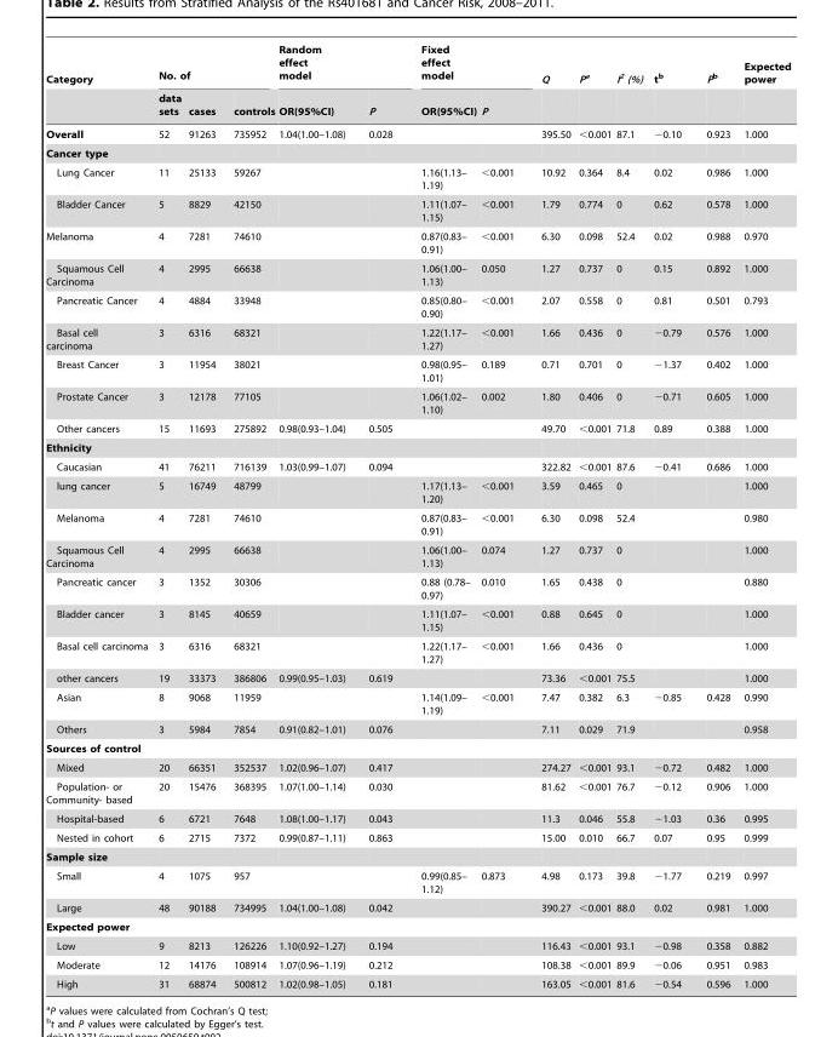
<table><thead><tr><td rowspan="2">Category</td><td colspan="3">No. of</td><td colspan="2">Random effect model</td><td colspan="2">Fixed effect model</td><td rowspan="2">Q</td><td rowspan="2">Pa</td><td rowspan="2">I<sup>2</sup> (%)</td><td rowspan="2">t<sup>b</sup></td><td rowspan="2">Pb</td><td rowspan="2">Expected power</td></tr><tr><td>data sets</td><td>cases</td><td>controls</td><td>OR(95%CI)</td><td>P</td><td>OR(95%CI)</td><td>P</td></tr></thead><tbody><tr><td>Overall</td><td>52</td><td>91263</td><td>735952</td><td>1.04(1.00–1.08)</td><td>0.028</td><td></td><td></td><td>395.50</td><td>&lt;0.001</td><td>87.1</td><td>−0.10</td><td>0.923</td><td>1.000</td></tr><tr><td colspan="14">Cancer type</td></tr><tr><td>Lung Cancer</td><td>11</td><td>25133</td><td>59267</td><td></td><td></td><td>1.16(1.13– 1.19)</td><td>&lt;0.001</td><td>10.92</td><td>0.364</td><td>8.4</td><td>0.02</td><td>0.986</td><td>1.000</td></tr><tr><td>Bladder Cancer</td><td>5</td><td>8829</td><td>42150</td><td></td><td></td><td>1.11(1.07– 1.15)</td><td>&lt;0.001</td><td>1.79</td><td>0.774</td><td>0</td><td>0.62</td><td>0.578</td><td>1.000</td></tr><tr><td>Melanoma</td><td>4</td><td>7281</td><td>74610</td><td></td><td></td><td>0.87(0.83– 0.91)</td><td>&lt;0.001</td><td>6.30</td><td>0.098</td><td>52.4</td><td>0.02</td><td>0.988</td><td>0.970</td></tr><tr><td>Squamous Cell Carcinoma</td><td>4</td><td>2995</td><td>66638</td><td></td><td></td><td>1.06(1.00– 1.13)</td><td>0.050</td><td>1.27</td><td>0.737</td><td>0</td><td>0.15</td><td>0.892</td><td>1.000</td></tr><tr><td>Pancreatic Cancer</td><td>4</td><td>4884</td><td>33948</td><td></td><td></td><td>0.85(0.80– 0.90)</td><td>&lt;0.001</td><td>2.07</td><td>0.558</td><td>0</td><td>0.81</td><td>0.501</td><td>0.793</td></tr><tr><td>Basal cell carcinoma</td><td>3</td><td>6316</td><td>68321</td><td></td><td></td><td>1.22(1.17– 1.27)</td><td>&lt;0.001</td><td>1.66</td><td>0.436</td><td>0</td><td>−0.79</td><td>0.576</td><td>1.000</td></tr><tr><td>Breast Cancer</td><td>3</td><td>11954</td><td>38021</td><td></td><td></td><td>0.98(0.95– 1.01)</td><td>0.189</td><td>0.71</td><td>0.701</td><td>0</td><td>−1.37</td><td>0.402</td><td>1.000</td></tr><tr><td>Prostate Cancer</td><td>3</td><td>12178</td><td>77105</td><td></td><td></td><td>1.06(1.02– 1.10)</td><td>0.002</td><td>1.80</td><td>0.406</td><td>0</td><td>−0.71</td><td>0.605</td><td>1.000</td></tr><tr><td>Other cancers</td><td>15</td><td>11693</td><td>275892</td><td>0.98(0.93–1.04)</td><td>0.505</td><td></td><td></td><td>49.70</td><td>&lt;0.001</td><td>71.8</td><td>0.89</td><td>0.388</td><td>1.000</td></tr><tr><td colspan="14">Ethnicity</td></tr><tr><td>Caucasian</td><td>41</td><td>76211</td><td>716139</td><td>1.03(0.99–1.07)</td><td>0.094</td><td></td><td></td><td>322.82</td><td>&lt;0.001</td><td>87.6</td><td>−0.41</td><td>0.686</td><td>1.000</td></tr><tr><td>lung cancer</td><td>5</td><td>16749</td><td>48799</td><td></td><td></td><td>1.17(1.13– 1.20)</td><td>&lt;0.001</td><td>3.59</td><td>0.465</td><td>0</td><td></td><td></td><td>1.000</td></tr><tr><td>Melanoma</td><td>4</td><td>7281</td><td>74610</td><td></td><td></td><td>0.87(0.83– 0.91)</td><td>&lt;0.001</td><td>6.30</td><td>0.098</td><td>52.4</td><td></td><td></td><td>0.980</td></tr><tr><td>Squamous Cell Carcinoma</td><td>4</td><td>2995</td><td>66638</td><td></td><td></td><td>1.06(1.00– 1.13)</td><td>0.074</td><td>1.27</td><td>0.737</td><td>0</td><td></td><td></td><td>1.000</td></tr><tr><td>Pancreatic cancer</td><td>3</td><td>1352</td><td>30306</td><td></td><td></td><td>0.88 (0.78– 0.97)</td><td>0.010</td><td>1.65</td><td>0.438</td><td>0</td><td></td><td></td><td>0.880</td></tr><tr><td>Bladder cancer</td><td>3</td><td>8145</td><td>40659</td><td></td><td></td><td>1.11(1.07– 1.15)</td><td>&lt;0.001</td><td>0.88</td><td>0.645</td><td>0</td><td></td><td></td><td>1.000</td></tr><tr><td>Basal cell carcinoma</td><td>3</td><td>6316</td><td>68321</td><td></td><td></td><td>1.22(1.17– 1.27)</td><td>&lt;0.001</td><td>1.66</td><td>0.436</td><td>0</td><td></td><td></td><td>1.000</td></tr><tr><td>other cancers</td><td>19</td><td>33373</td><td>386806</td><td>0.99(0.95–1.03)</td><td>0.619</td><td></td><td></td><td>73.36</td><td>&lt;0.001</td><td>75.5</td><td></td><td></td><td>1.000</td></tr><tr><td>Asian</td><td>8</td><td>9068</td><td>11959</td><td></td><td></td><td>1.14(1.09– 1.19)</td><td>&lt;0.001</td><td>7.47</td><td>0.382</td><td>6.3</td><td>−0.85</td><td>0.428</td><td>0.990</td></tr><tr><td>Others</td><td>3</td><td>5984</td><td>7854</td><td>0.91(0.82–1.01)</td><td>0.076</td><td></td><td></td><td>7.11</td><td>0.029</td><td>71.9</td><td></td><td></td><td>0.958</td></tr><tr><td colspan="14">Sources of control</td></tr><tr><td>Mixed</td><td>20</td><td>66351</td><td>352537</td><td>1.02(0.96–1.07)</td><td>0.417</td><td></td><td></td><td>274.27</td><td>&lt;0.001</td><td>93.1</td><td>−0.72</td><td>0.482</td><td>1.000</td></tr><tr><td>Population- or Community- based</td><td>20</td><td>15476</td><td>368395</td><td>1.07(1.00–1.14)</td><td>0.030</td><td></td><td></td><td>81.62</td><td>&lt;0.001</td><td>76.7</td><td>−0.12</td><td>0.906</td><td>1.000</td></tr><tr><td>Hospital-based</td><td>6</td><td>6721</td><td>7648</td><td>1.08(1.00–1.17)</td><td>0.043</td><td></td><td></td><td>11.3</td><td>0.046</td><td>55.8</td><td>−1.03</td><td>0.36</td><td>0.995</td></tr><tr><td>Nested in cohort</td><td>6</td><td>2715</td><td>7372</td><td>0.99(0.87–1.11)</td><td>0.863</td><td></td><td></td><td>15.00</td><td>0.010</td><td>66.7</td><td>0.07</td><td>0.95</td><td>0.999</td></tr><tr><td colspan="14">Sample size</td></tr><tr><td>Small</td><td>4</td><td>1075</td><td>957</td><td></td><td></td><td>0.99(0.85– 1.12)</td><td>0.873</td><td>4.98</td><td>0.173</td><td>39.8</td><td>−1.77</td><td>0.219</td><td>0.997</td></tr><tr><td>Large</td><td>48</td><td>90188</td><td>734995</td><td>1.04(1.00–1.08)</td><td>0.042</td><td></td><td></td><td>390.27</td><td>&lt;0.001</td><td>88.0</td><td>0.02</td><td>0.981</td><td>1.000</td></tr><tr><td colspan="14">Expected power</td></tr><tr><td>Low</td><td>9</td><td>8213</td><td>126226</td><td>1.10(0.92–1.27)</td><td>0.194</td><td></td><td></td><td>116.43</td><td>&lt;0.001</td><td>93.1</td><td>−0.98</td><td>0.358</td><td>0.882</td></tr><tr><td>Moderate</td><td>12</td><td>14176</td><td>108914</td><td>1.07(0.96–1.19)</td><td>0.212</td><td></td><td></td><td>108.38</td><td>&lt;0.001</td><td>89.9</td><td>−0.06</td><td>0.951</td><td>0.983</td></tr><tr><td>High</td><td>31</td><td>68874</td><td>500812</td><td>1.02(0.98–1.05)</td><td>0.181</td><td></td><td></td><td>163.05</td><td>&lt;0.001</td><td>81.6</td><td>−0.54</td><td>0.596</td><td>1.000</td></tr></tbody></table>